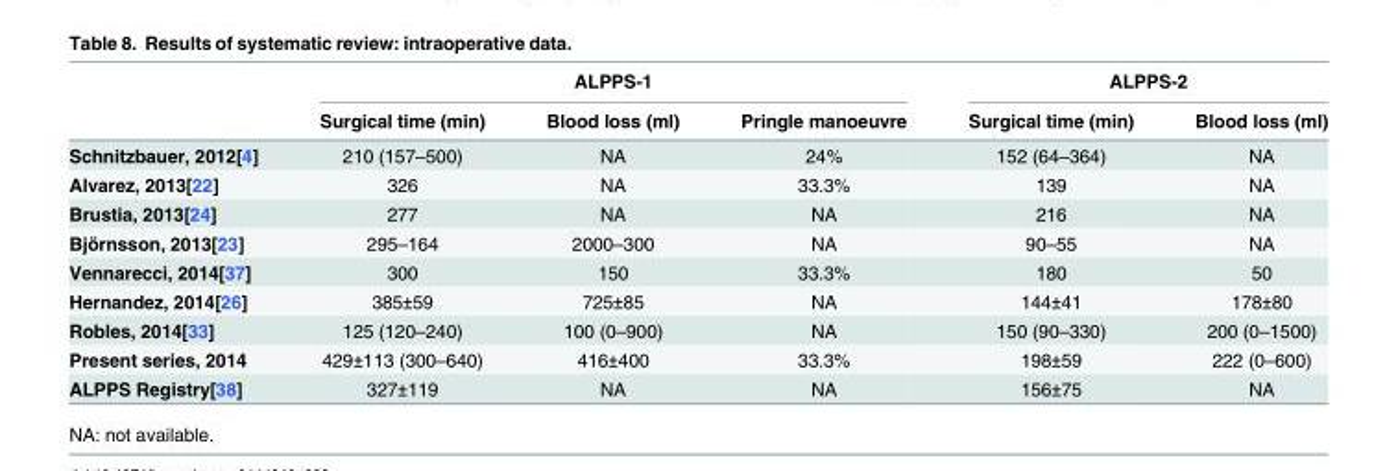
<table><thead><tr><td rowspan="2"></td><td colspan="3">ALPPS-1</td><td colspan="2">ALPPS-2</td></tr><tr><td>Surgical time (min)</td><td>Blood loss (ml)</td><td>Pringle manoeuvre</td><td>Surgical time (min)</td><td>Blood loss (ml)</td></tr></thead><tbody><tr><td>Schnitzbauer, 2012[4]</td><td>210 (157–500)</td><td>NA</td><td>24%</td><td>152 (64–364)</td><td>NA</td></tr><tr><td>Alvarez, 2013[22]</td><td>326</td><td>NA</td><td>33.3%</td><td>139</td><td>NA</td></tr><tr><td>Brustia, 2013[24]</td><td>277</td><td>NA</td><td>NA</td><td>216</td><td>NA</td></tr><tr><td>Björnsson, 2013[23]</td><td>295–164</td><td>2000–300</td><td>NA</td><td>90–55</td><td>NA</td></tr><tr><td>Vennarecci, 2014[37]</td><td>300</td><td>150</td><td>33.3%</td><td>180</td><td>50</td></tr><tr><td>Hernandez, 2014[26]</td><td>385±59</td><td>725±85</td><td>NA</td><td>144±41</td><td>178±80</td></tr><tr><td>Robles, 2014[33]</td><td>125 (120–240)</td><td>100 (0–900)</td><td>NA</td><td>150 (90–330)</td><td>200 (0–1500)</td></tr><tr><td>Present series, 2014</td><td>429±113 (300–640)</td><td>416±400</td><td>33.3%</td><td>198±59</td><td>222 (0–600)</td></tr><tr><td>ALPPS Registry[38]</td><td>327±119</td><td>NA</td><td>NA</td><td>156±75</td><td>NA</td></tr></tbody></table>